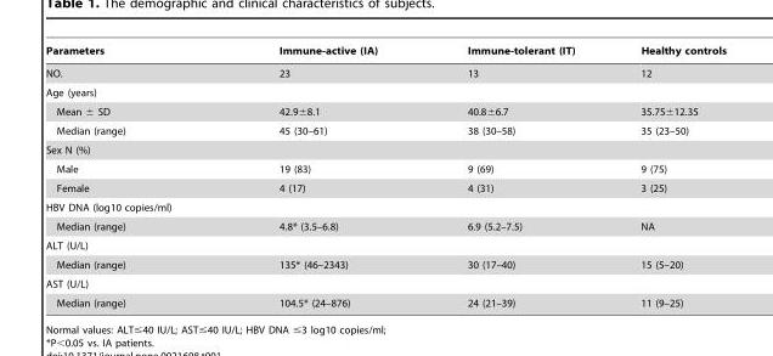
<table><thead><tr><td>Parameters</td><td>Immune-active (IA)</td><td>Immune-tolerant (IT)</td><td>Healthy controls</td></tr></thead><tbody><tr><td>NO.</td><td>23</td><td>13</td><td>12</td></tr><tr><td colspan="4">Age (years)</td></tr><tr><td>Mean ± SD</td><td>42.9±8.1</td><td>40.8±6.7</td><td>35.75±12.35</td></tr><tr><td>Median (range)</td><td>45 (30–61)</td><td>38 (30–58)</td><td>35 (23–50)</td></tr><tr><td colspan="4">Sex N (%)</td></tr><tr><td>Male</td><td>19 (83)</td><td>9 (69)</td><td>9 (75)</td></tr><tr><td>Female</td><td>4 (17)</td><td>4 (31)</td><td>3 (25)</td></tr><tr><td colspan="4">HBV DNA (log10 copies/ml)</td></tr><tr><td>Median (range)</td><td>4.8* (3.5–6.8)</td><td>6.9 (5.2–7.5)</td><td>NA</td></tr><tr><td colspan="4">ALT (U/L)</td></tr><tr><td>Median (range)</td><td>135* (46–2343)</td><td>30 (17–40)</td><td>15 (5–20)</td></tr><tr><td colspan="4">AST (U/L)</td></tr><tr><td>Median (range)</td><td>104.5* (24–876)</td><td>24 (21–39)</td><td>11 (9–25)</td></tr></tbody></table>